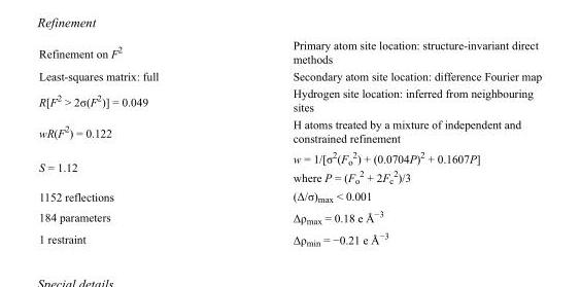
<table><tbody><tr><td>Refinement on F<sup>2</sup></td><td>Primary atom site location: structure-invariant direct methods</td></tr><tr><td>Least-squares matrix: full</td><td>Secondary atom site location: difference Fourier map</td></tr><tr><td>R[F<sup>2</sup> &gt; 2σ(F<sup>2</sup>)] = 0.049</td><td>Hydrogen site location: inferred from neighbouring sites</td></tr><tr><td>wR(F<sup>2</sup>) = 0.122</td><td>H atoms treated by a mixture of independent and constrained refinement</td></tr><tr><td>S = 1.12</td><td>w = 1/[σ<sup>2</sup>(F<sub>o</sub> <sup>2</sup>) + (0.0704P)<sup>2</sup> + 0.1607P] where P = (F<sub>o</sub> <sup>2</sup> + 2F<sub>c</sub> <sup>2</sup>)/3</td></tr><tr><td>1152 reflections</td><td>(Δ/σ)<sub>max</sub> &lt; 0.001</td></tr><tr><td>184 parameters</td><td>Δρ<sub>max</sub> = 0.18 e Å<sup>−3</sup></td></tr><tr><td>1 restraint</td><td>Δρ<sub>min</sub> = −0.21 e Å<sup>−3</sup></td></tr></tbody></table>